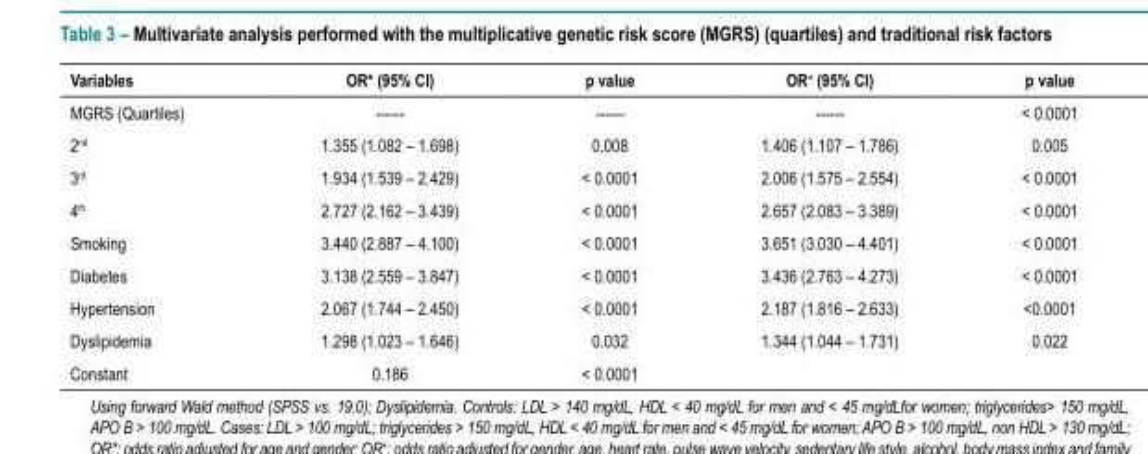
<table><thead><tr><td>Variables</td><td>OR* (95% CI)</td><td>p value</td><td>OR<sup>+</sup> (95% CI)</td><td>p value</td></tr></thead><tbody><tr><td>MGRS (Quartiles)</td><td>------</td><td>------</td><td>------</td><td>&lt; 0.0001</td></tr><tr><td>2<sup>nd</sup></td><td>1.355 (1.082 – 1.698)</td><td>0.008</td><td>1.406 (1.107 – 1.786)</td><td>0.005</td></tr><tr><td>3<sup>rd</sup></td><td>1.934 (1.539 – 2.429)</td><td>&lt; 0.0001</td><td>2.006 (1.575 – 2.554)</td><td>&lt; 0.0001</td></tr><tr><td>4<sup>th</sup></td><td>2.727 (2.162 – 3.439)</td><td>&lt; 0.0001</td><td>2.657 (2.083 – 3.389)</td><td>&lt; 0.0001</td></tr><tr><td>Smoking</td><td>3.440 (2.887 – 4.100)</td><td>&lt; 0.0001</td><td>3.651 (3.030 – 4.401)</td><td>&lt; 0.0001</td></tr><tr><td>Diabetes</td><td>3.138 (2.559 – 3.847)</td><td>&lt; 0.0001</td><td>3.436 (2.763 – 4.273)</td><td>&lt; 0.0001</td></tr><tr><td>Hypertension</td><td>2.067 (1.744 – 2.450)</td><td>&lt; 0.0001</td><td>2.187 (1.816 – 2.633)</td><td>&lt;0.0001</td></tr><tr><td>Dyslipidemia</td><td>1.298 (1.023 – 1.646)</td><td>0.032</td><td>1.344 (1.044 – 1.731)</td><td>0.022</td></tr><tr><td>Constant</td><td>0.186</td><td>&lt; 0.0001</td><td></td><td></td></tr></tbody></table>